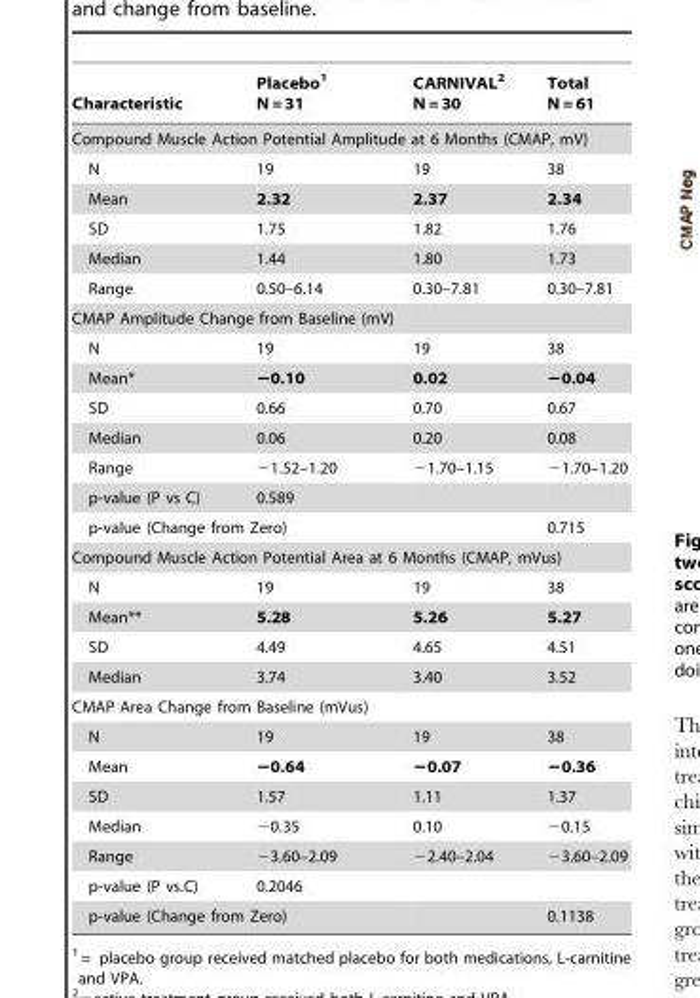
<table><thead><tr><td>Characteristic</td><td>Placebo<sup>1</sup> N = 31</td><td>CARNIVAL<sup>2</sup> N = 30</td><td>Total N = 61</td></tr></thead><tbody><tr><td colspan="4">Compound Muscle Action Potential Amplitude at 6 Months (CMAP, mV)</td></tr><tr><td>N</td><td>19</td><td>19</td><td>38</td></tr><tr><td>Mean</td><td>2.32</td><td>2.37</td><td>2.34</td></tr><tr><td>SD</td><td>1.75</td><td>1.82</td><td>1.76</td></tr><tr><td>Median</td><td>1.44</td><td>1.80</td><td>1.73</td></tr><tr><td>Range</td><td>0.50–6.14</td><td>0.30–7.81</td><td>0.30–7.81</td></tr><tr><td colspan="4">CMAP Amplitude Change from Baseline (mV)</td></tr><tr><td>N</td><td>19</td><td>19</td><td>38</td></tr><tr><td>Mean*</td><td>−0.10</td><td>0.02</td><td>−0.04</td></tr><tr><td>SD</td><td>0.66</td><td>0.70</td><td>0.67</td></tr><tr><td>Median</td><td>0.06</td><td>0.20</td><td>0.08</td></tr><tr><td>Range</td><td>−1.52–1.20</td><td>−1.70–1.15</td><td>−1.70–1.20</td></tr><tr><td>p-value (P vs C)</td><td>0.589</td><td></td><td></td></tr><tr><td colspan="2">p-value (Change from Zero)</td><td></td><td>0.715</td></tr><tr><td colspan="4">Compound Muscle Action Potential Area at 6 Months (CMAP, mVus)</td></tr><tr><td>N</td><td>19</td><td>19</td><td>38</td></tr><tr><td>Mean**</td><td>5.28</td><td>5.26</td><td>5.27</td></tr><tr><td>SD</td><td>4.49</td><td>4.65</td><td>4.51</td></tr><tr><td>Median</td><td>3.74</td><td>3.40</td><td>3.52</td></tr><tr><td colspan="4">CMAP Area Change from Baseline (mVus)</td></tr><tr><td>N</td><td>19</td><td>19</td><td>38</td></tr><tr><td>Mean</td><td>−0.64</td><td>−0.07</td><td>−0.36</td></tr><tr><td>SD</td><td>1.57</td><td>1.11</td><td>1.37</td></tr><tr><td>Median</td><td>−0.35</td><td>0.10</td><td>−0.15</td></tr><tr><td>Range</td><td>−3.60–2.09</td><td>−2.40–2.04</td><td>−3.60–2.09</td></tr><tr><td>p-value (P vs.C)</td><td>0.2046</td><td></td><td></td></tr><tr><td colspan="2">p-value (Change from Zero)</td><td></td><td>0.1138</td></tr></tbody></table>